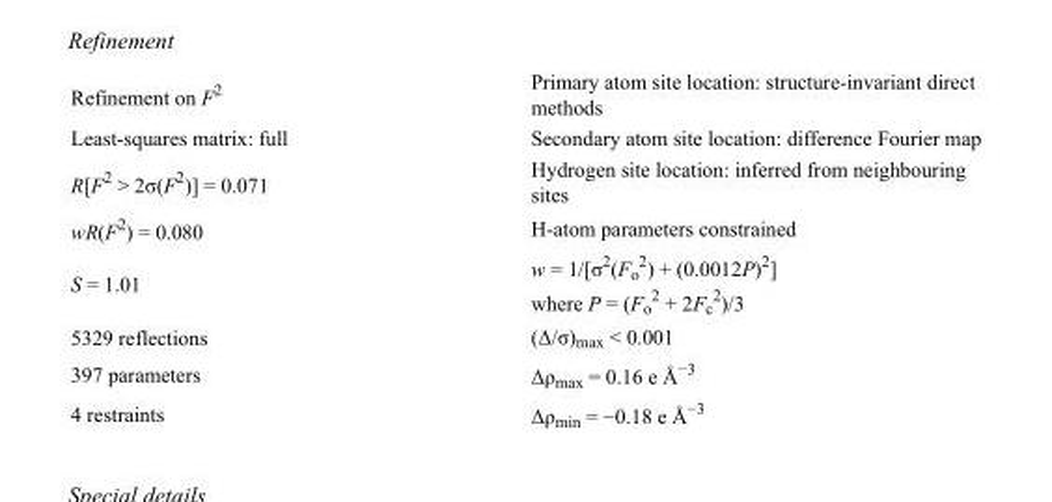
<table><tbody><tr><td>Refinement on F<sup>2</sup></td><td>Primary atom site location: structure-invariant direct methods</td></tr><tr><td>Least-squares matrix: full</td><td>Secondary atom site location: difference Fourier map</td></tr><tr><td>R[F<sup>2</sup> &gt; 2σ(F<sup>2</sup>)] = 0.071</td><td>Hydrogen site location: inferred from neighbouring sites</td></tr><tr><td>wR(F<sup>2</sup>) = 0.080</td><td>H-atom parameters constrained</td></tr><tr><td>S = 1.01</td><td>w = 1/[σ<sup>2</sup>(F<sub>o</sub> <sup>2</sup>) + (0.0012P)<sup>2</sup>] where P = (F<sub>o</sub> <sup>2</sup> + 2F<sub>c</sub> <sup>2</sup>)/3</td></tr><tr><td>5329 reflections</td><td>(Δ/σ)<sub>max</sub> &lt; 0.001</td></tr><tr><td>397 parameters</td><td>Δρ<sub>max</sub> = 0.16 e Å<sup>−3</sup></td></tr><tr><td>4 restraints</td><td>Δρ<sub>min</sub> = −0.18 e Å<sup>−3</sup></td></tr></tbody></table>